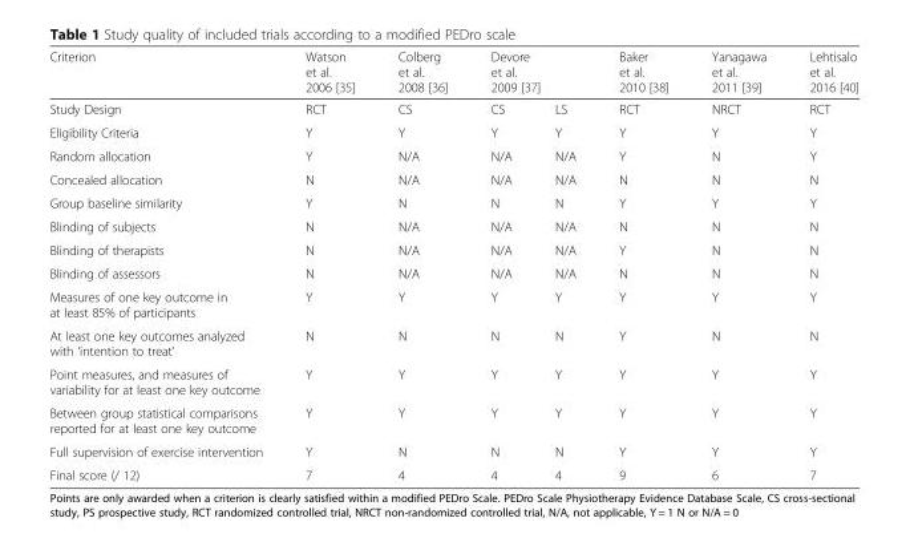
<table><thead><tr><td rowspan="2">Criterion Study Design</td><td rowspan="2">Watson et al. 2006 [35] RCT</td><td rowspan="2">Colberg et al. 2008 [36] CS</td><td colspan="2">Devore et al. 2009 [37]</td><td rowspan="2">Baker et al. 2010 [38] RCT</td><td rowspan="2">Yanagawa et al. 2011 [39] NRCT</td><td rowspan="2">Lehtisalo et al. 2016 [40] RCT</td></tr><tr><td>CS</td><td>LS</td></tr></thead><tbody><tr><td>Eligibility Criteria</td><td>Y</td><td>Y</td><td>Y</td><td>Y</td><td>Y</td><td>Y</td><td>Y</td></tr><tr><td>Random allocation</td><td>Y</td><td>N/A</td><td>N/A</td><td>N/A</td><td>Y</td><td>N</td><td>Y</td></tr><tr><td>Concealed allocation</td><td>N</td><td>N/A</td><td>N/A</td><td>N/A</td><td>N</td><td>N</td><td>N</td></tr><tr><td>Group baseline similarity</td><td>Y</td><td>N</td><td>N</td><td>N</td><td>Y</td><td>Y</td><td>Y</td></tr><tr><td>Blinding of subjects</td><td>N</td><td>N/A</td><td>N/A</td><td>N/A</td><td>N</td><td>N</td><td>N</td></tr><tr><td>Blinding of therapists</td><td>N</td><td>N/A</td><td>N/A</td><td>N/A</td><td>Y</td><td>N</td><td>N</td></tr><tr><td>Blinding of assessors</td><td>N</td><td>N/A</td><td>N/A</td><td>N/A</td><td>N</td><td>N</td><td>N</td></tr><tr><td>Measures of one key outcome in at least 85% of participants</td><td>Y</td><td>Y</td><td>Y</td><td>Y</td><td>Y</td><td>Y</td><td>Y</td></tr><tr><td>At least one key outcomes analyzed with ‘intention to treat’</td><td>N</td><td>N</td><td>N</td><td>N</td><td>Y</td><td>N</td><td>N</td></tr><tr><td>Point measures, and measures of variability for at least one key outcome</td><td>Y</td><td>Y</td><td>Y</td><td>Y</td><td>Y</td><td>Y</td><td>Y</td></tr><tr><td>Between group statistical comparisons reported for at least one key outcome</td><td>Y</td><td>Y</td><td>Y</td><td>Y</td><td>Y</td><td>Y</td><td>Y</td></tr><tr><td>Full supervision of exercise intervention</td><td>Y</td><td>N</td><td>N</td><td>N</td><td>Y</td><td>Y</td><td>Y</td></tr><tr><td>Final score (/ 12)</td><td>7</td><td>4</td><td>4</td><td>4</td><td>9</td><td>6</td><td>7</td></tr></tbody></table>